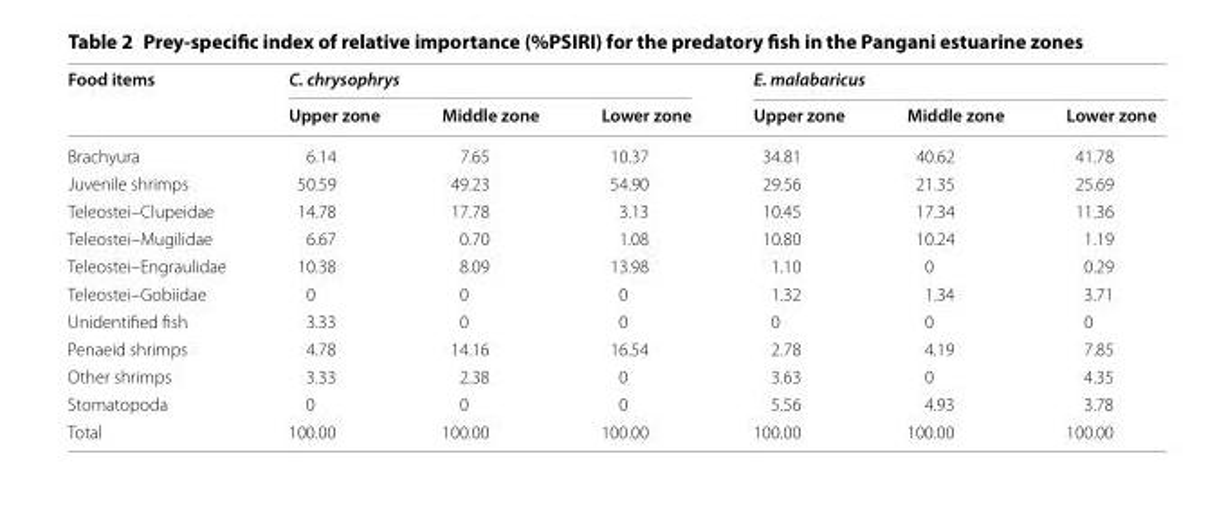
<table><thead><tr><td rowspan="2">Food items</td><td colspan="3">C. chrysophrys</td><td colspan="3">E. malabaricus</td></tr><tr><td>Upper zone</td><td>Middle zone</td><td>Lower zone</td><td>Upper zone</td><td>Middle zone</td><td>Lower zone</td></tr></thead><tbody><tr><td>Brachyura</td><td>6.14</td><td>7.65</td><td>10.37</td><td>34.81</td><td>40.62</td><td>41.78</td></tr><tr><td>Juvenile shrimps</td><td>50.59</td><td>49.23</td><td>54.90</td><td>29.56</td><td>21.35</td><td>25.69</td></tr><tr><td>Teleostei–Clupeidae</td><td>14.78</td><td>17.78</td><td>3.13</td><td>10.45</td><td>17.34</td><td>11.36</td></tr><tr><td>Teleostei–Mugilidae</td><td>6.67</td><td>0.70</td><td>1.08</td><td>10.80</td><td>10.24</td><td>1.19</td></tr><tr><td>Teleostei–Engraulidae</td><td>10.38</td><td>8.09</td><td>13.98</td><td>1.10</td><td>0</td><td>0.29</td></tr><tr><td>Teleostei–Gobiidae</td><td>0</td><td>0</td><td>0</td><td>1.32</td><td>1.34</td><td>3.71</td></tr><tr><td>Unidentified fish</td><td>3.33</td><td>0</td><td>0</td><td>0</td><td>0</td><td>0</td></tr><tr><td>Penaeid shrimps</td><td>4.78</td><td>14.16</td><td>16.54</td><td>2.78</td><td>4.19</td><td>7.85</td></tr><tr><td>Other shrimps</td><td>3.33</td><td>2.38</td><td>0</td><td>3.63</td><td>0</td><td>4.35</td></tr><tr><td>Stomatopoda</td><td>0</td><td>0</td><td>0</td><td>5.56</td><td>4.93</td><td>3.78</td></tr><tr><td>Total</td><td>100.00</td><td>100.00</td><td>100.00</td><td>100.00</td><td>100.00</td><td>100.00</td></tr></tbody></table>